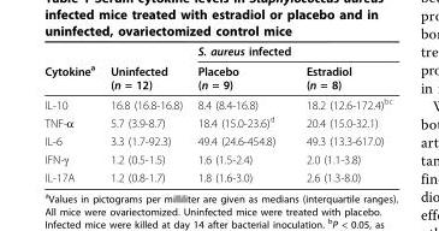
<table><thead><tr><td rowspan="2">Cytokine<sup>a</sup></td><td rowspan="2">Uninfected (n = 12)</td><td rowspan="2">S. aureus infected Placebo (n = 9)</td><td rowspan="2">Estradiol (n = 8)</td></tr><tr></tr></thead><tbody><tr><td>IL-10</td><td>16.8 (16.8-16.8)</td><td>8.4 (8.4-16.8)</td><td>18.2 (12.6-172.4)<sup>bc</sup></td></tr><tr><td>TNF-α</td><td>5.7 (3.9-8.7)</td><td>18.4 (15.0-23.6)<sup>d</sup></td><td>20.4 (15.0-32.1)</td></tr><tr><td>IL-6</td><td>3.3 (1.7-92.3)</td><td>49.4 (24.6-454.8)</td><td>49.3 (13.3-617.0)</td></tr><tr><td>IFN-γ</td><td>1.2 (0.5-1.5)</td><td>1.6 (1.5-2.4)</td><td>2.0 (1.1-3.8)</td></tr><tr><td>IL-17A</td><td>1.2 (0.8-1.7)</td><td>1.8 (1.6-3.0)</td><td>2.6 (1.3-8.0)</td></tr></tbody></table>